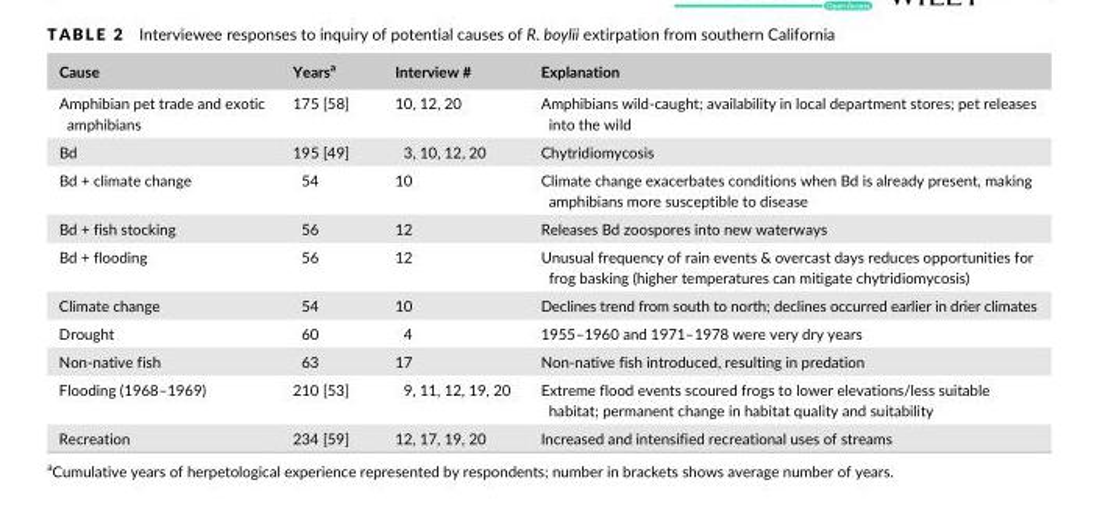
<table><thead><tr><td>Cause</td><td>Years<sup>a</sup></td><td>Interview #</td><td>Explanation</td></tr></thead><tbody><tr><td>Amphibian pet trade and exotic amphibians</td><td>175 [58]</td><td>10, 12, 20</td><td>Amphibians wild- caught; availability in local department stores; pet releases into the wild</td></tr><tr><td>Bd</td><td>195 [49]</td><td>3, 10, 12, 20</td><td>Chytridiomycosis</td></tr><tr><td>Bd + climate change</td><td>54</td><td>10</td><td>Climate change exacerbates conditions when Bd is already present, making amphibians more susceptible to disease</td></tr><tr><td>Bd + fish stocking</td><td>56</td><td>12</td><td>Releases Bd zoospores into new waterways</td></tr><tr><td>Bd + flooding</td><td>56</td><td>12</td><td>Unusual frequency of rain events &amp; overcast days reduces opportunities for frog basking (higher temperatures can mitigate chytridiomycosis)</td></tr><tr><td>Climate change</td><td>54</td><td>10</td><td>Declines trend from south to north; declines occurred earlier in drier climates</td></tr><tr><td>Drought</td><td>60</td><td>4</td><td>1955–1960 and 1971–1978 were very dry years</td></tr><tr><td>Non- native fish</td><td>63</td><td>17</td><td>Non- native fish introduced, resulting in predation</td></tr><tr><td>Flooding (1968–1969)</td><td>210 [53]</td><td>9, 11, 12, 19, 20</td><td>Extreme flood events scoured frogs to lower elevations/less suitable habitat; permanent change in habitat quality and suitability</td></tr><tr><td>Recreation</td><td>234 [59]</td><td>12, 17, 19, 20</td><td>Increased and intensified recreational uses of streams</td></tr></tbody></table>